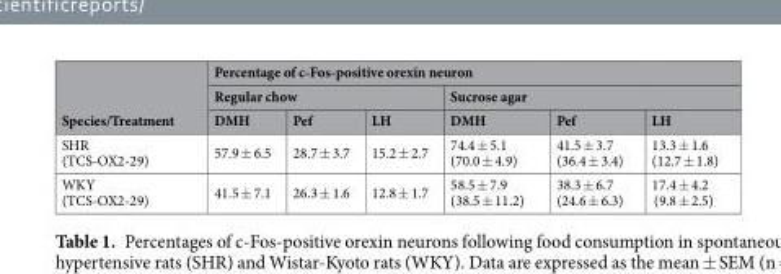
<table><thead><tr><td rowspan="3">Species/Treatment</td><td colspan="6">Percentage of c-Fos-positive orexin neuron</td></tr><tr><td colspan="3">Regular chow</td><td colspan="3">Sucrose agar</td></tr><tr><td>DMH</td><td>Pef</td><td>LH</td><td>DMH</td><td>Pef</td><td>LH</td></tr></thead><tbody><tr><td>SHR (TCS-OX2-29)</td><td>57.9 ± 6.5</td><td>28.7 ± 3.7</td><td>15.2 ± 2.7</td><td>74.4 ± 5.1 (70.0 ± 4.9)</td><td>41.5 ± 3.7 (36.4 ± 3.4)</td><td>13.3 ± 1.6 (12.7 ± 1.8)</td></tr><tr><td>WKY (TCS-OX2-29)</td><td>41.5 ± 7.1</td><td>26.3 ± 1.6</td><td>12.8 ± 1.7</td><td>58.5 ± 7.9 (38.5 ± 11.2)</td><td>38.3 ± 6.7 (24.6 ± 6.3)</td><td>17.4 ± 4.2 (9.8 ± 2.5)</td></tr></tbody></table>